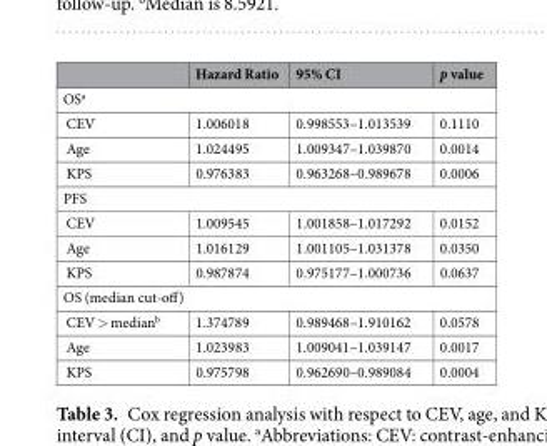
<table><thead><tr><td></td><td>Hazard Ratio</td><td>95% CI</td><td>p value</td></tr></thead><tbody><tr><td colspan="4">OS<sup>a</sup></td></tr><tr><td>CEV</td><td>1.006018</td><td>0.998553–1.013539</td><td>0.1110</td></tr><tr><td>Age</td><td>1.024495</td><td>1.009347–1.039870</td><td>0.0014</td></tr><tr><td>KPS</td><td>0.976383</td><td>0.963268–0.989678</td><td>0.0006</td></tr><tr><td colspan="4">PFS</td></tr><tr><td>CEV</td><td>1.009545</td><td>1.001858–1.017292</td><td>0.0152</td></tr><tr><td>Age</td><td>1.016129</td><td>1.001105–1.031378</td><td>0.0350</td></tr><tr><td>KPS</td><td>0.987874</td><td>0.975177–1.000736</td><td>0.0637</td></tr><tr><td colspan="4">OS (median cut-off)</td></tr><tr><td>CEV &gt; median<sup>b</sup></td><td>1.374789</td><td>0.989468–1.910162</td><td>0.0578</td></tr><tr><td>Age</td><td>1.023983</td><td>1.009041–1.039147</td><td>0.0017</td></tr><tr><td>KPS</td><td>0.975798</td><td>0.962690–0.989084</td><td>0.0004</td></tr></tbody></table>